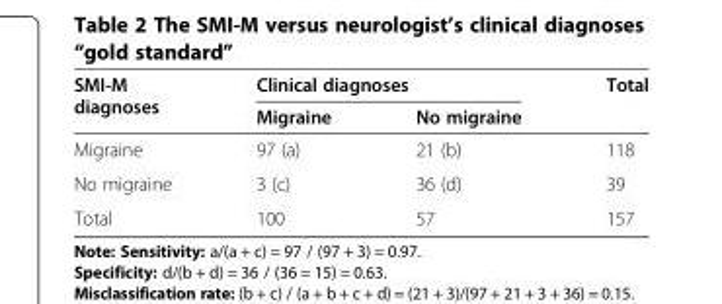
<table><thead><tr><td rowspan="2">SMI-M diagnoses</td><td colspan="2">Clinical diagnoses</td><td rowspan="2">Total</td></tr><tr><td>Migraine</td><td>No migraine</td></tr></thead><tbody><tr><td>Migraine</td><td>97 (a)</td><td>21 (b)</td><td>118</td></tr><tr><td>No migraine</td><td>3 (c)</td><td>36 (d)</td><td>39</td></tr><tr><td>Total</td><td>100</td><td>57</td><td>157</td></tr></tbody></table>